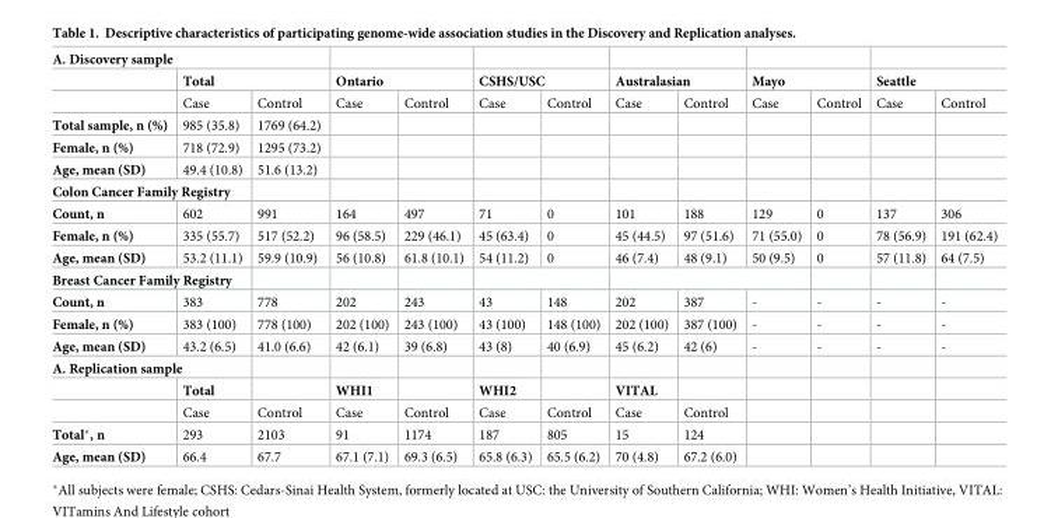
<table><tbody><tr><td colspan="13">A. Discovery sample</td></tr><tr><td></td><td colspan="2">Total</td><td colspan="2">Ontario</td><td colspan="2">CSHS/USC</td><td colspan="2">Australasian</td><td colspan="2">Mayo</td><td colspan="2">Seattle</td></tr><tr><td></td><td>Case</td><td>Control</td><td>Case</td><td>Control</td><td>Case</td><td>Control</td><td>Case</td><td>Control</td><td>Case</td><td>Control</td><td>Case</td><td>Control</td></tr><tr><td>Total sample, n (%)</td><td>985 (35.8)</td><td>1769 (64.2)</td><td></td><td></td><td></td><td></td><td></td><td></td><td></td><td></td><td></td><td></td></tr><tr><td>Female, n (%)</td><td>718 (72.9)</td><td>1295 (73.2)</td><td></td><td></td><td></td><td></td><td></td><td></td><td></td><td></td><td></td><td></td></tr><tr><td>Age, mean (SD)</td><td>49.4 (10.8)</td><td>51.6 (13.2)</td><td></td><td></td><td></td><td></td><td></td><td></td><td></td><td></td><td></td><td></td></tr><tr><td colspan="13">Colon Cancer Family Registry</td></tr><tr><td>Count, n</td><td>602</td><td>991</td><td>164</td><td>497</td><td>71</td><td>0</td><td>101</td><td>188</td><td>129</td><td>0</td><td>137</td><td>306</td></tr><tr><td>Female, n (%)</td><td>335 (55.7)</td><td>517 (52.2)</td><td>96 (58.5)</td><td>229 (46.1)</td><td>45 (63.4)</td><td>0</td><td>45 (44.5)</td><td>97 (51.6)</td><td>71 (55.0)</td><td>0</td><td>78 (56.9)</td><td>191 (62.4)</td></tr><tr><td>Age, mean (SD)</td><td>53.2 (11.1)</td><td>59.9 (10.9)</td><td>56 (10.8)</td><td>61.8 (10.1)</td><td>54 (11.2)</td><td>0</td><td>46 (7.4)</td><td>48 (9.1)</td><td>50 (9.5)</td><td>0</td><td>57 (11.8)</td><td>64 (7.5)</td></tr><tr><td colspan="13">Breast Cancer Family Registry</td></tr><tr><td>Count, n</td><td>383</td><td>778</td><td>202</td><td>243</td><td>43</td><td>148</td><td>202</td><td>387</td><td>-</td><td>-</td><td>-</td><td>-</td></tr><tr><td>Female, n (%)</td><td>383 (100)</td><td>778 (100)</td><td>202 (100)</td><td>243 (100)</td><td>43 (100)</td><td>148 (100)</td><td>202 (100)</td><td>387 (100)</td><td>-</td><td>-</td><td>-</td><td>-</td></tr><tr><td>Age, mean (SD)</td><td>43.2 (6.5)</td><td>41.0 (6.6)</td><td>42 (6.1)</td><td>39 (6.8)</td><td>43 (8)</td><td>40 (6.9)</td><td>45 (6.2)</td><td>42 (6)</td><td>-</td><td>-</td><td>-</td><td>-</td></tr><tr><td colspan="13">A. Replication sample</td></tr><tr><td></td><td>Total</td><td></td><td>WHI1</td><td></td><td>WHI2</td><td></td><td>VITAL</td><td></td><td></td><td></td><td></td><td></td></tr><tr><td></td><td>Case</td><td>Control</td><td>Case</td><td>Control</td><td>Case</td><td>Control</td><td>Case</td><td>Control</td><td></td><td></td><td></td><td></td></tr><tr><td>Total*, n</td><td>293</td><td>2103</td><td>91</td><td>1174</td><td>187</td><td>805</td><td>15</td><td>124</td><td></td><td></td><td></td><td></td></tr><tr><td>Age, mean (SD)</td><td>66.4</td><td>67.7</td><td>67.1 (7.1)</td><td>69.3 (6.5)</td><td>65.8 (6.3)</td><td>65.5 (6.2)</td><td>70 (4.8)</td><td>67.2 (6.0)</td><td></td><td></td><td></td><td></td></tr></tbody></table>